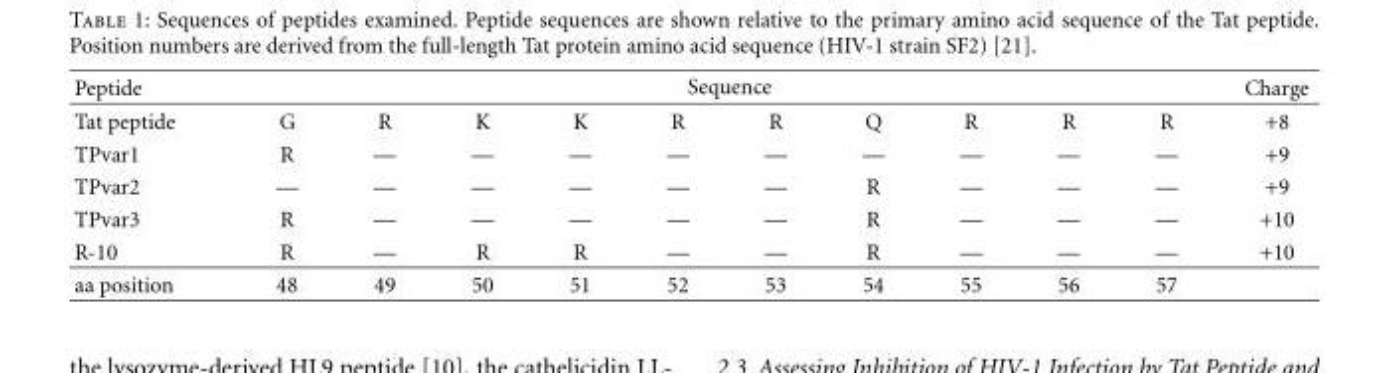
<table><thead><tr><td rowspan="2">Peptide Tat peptide</td><td colspan="10">Sequence</td><td rowspan="2">Charge +8</td></tr><tr><td>G</td><td>R</td><td>K</td><td>K</td><td>R</td><td>R</td><td>Q</td><td>R</td><td>R</td><td>R</td></tr></thead><tbody><tr><td>TPvar1</td><td>R</td><td>—</td><td>—</td><td>—</td><td>—</td><td>—</td><td>—</td><td>—</td><td>—</td><td>—</td><td>+9</td></tr><tr><td>TPvar2</td><td>—</td><td>—</td><td>—</td><td>—</td><td>—</td><td>—</td><td>R</td><td>—</td><td>—</td><td>—</td><td>+9</td></tr><tr><td>TPvar3</td><td>R</td><td>—</td><td>—</td><td>—</td><td>—</td><td>—</td><td>R</td><td>—</td><td>—</td><td>—</td><td>+10</td></tr><tr><td>R-10</td><td>R</td><td>—</td><td>R</td><td>R</td><td>—</td><td>—</td><td>R</td><td>—</td><td>—</td><td>—</td><td>+10</td></tr><tr><td>aa position</td><td>48</td><td>49</td><td>50</td><td>51</td><td>52</td><td>53</td><td>54</td><td>55</td><td>56</td><td>57</td><td></td></tr></tbody></table>